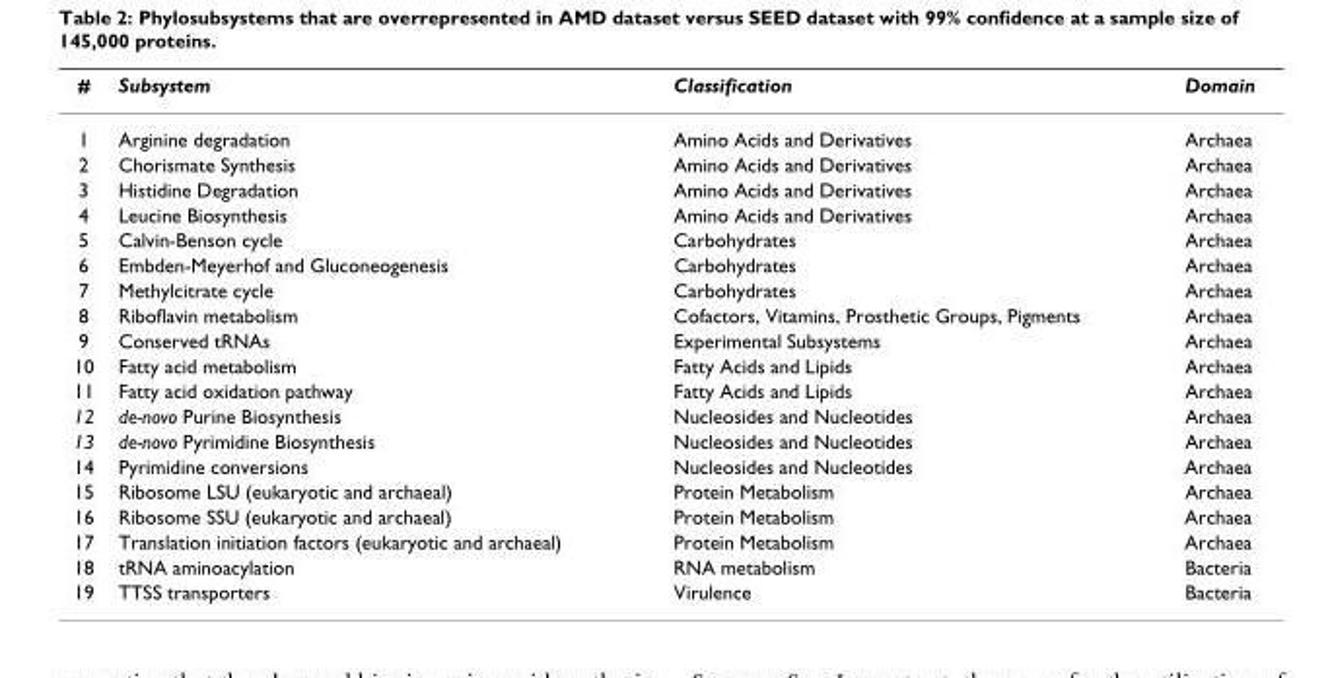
<table><thead><tr><td>#</td><td>Subsystem</td><td>Classification</td><td>Domain</td></tr></thead><tbody><tr><td>1</td><td>Arginine degradation</td><td>Amino Acids and Derivatives</td><td>Archaea</td></tr><tr><td>2</td><td>Chorismate Synthesis</td><td>Amino Acids and Derivatives</td><td>Archaea</td></tr><tr><td>3</td><td>Histidine Degradation</td><td>Amino Acids and Derivatives</td><td>Archaea</td></tr><tr><td>4</td><td>Leucine Biosynthesis</td><td>Amino Acids and Derivatives</td><td>Archaea</td></tr><tr><td>5</td><td>Calvin-Benson cycle</td><td>Carbohydrates</td><td>Archaea</td></tr><tr><td>6</td><td>Embden-Meyerhof and Gluconeogenesis</td><td>Carbohydrates</td><td>Archaea</td></tr><tr><td>7</td><td>Methylcitrate cycle</td><td>Carbohydrates</td><td>Archaea</td></tr><tr><td>8</td><td>Riboflavin metabolism</td><td>Cofactors, Vitamins, Prosthetic Groups, Pigments</td><td>Archaea</td></tr><tr><td>9</td><td>Conserved tRNAs</td><td>Experimental Subsystems</td><td>Archaea</td></tr><tr><td>10</td><td>Fatty acid metabolism</td><td>Fatty Acids and Lipids</td><td>Archaea</td></tr><tr><td>11</td><td>Fatty acid oxidation pathway</td><td>Fatty Acids and Lipids</td><td>Archaea</td></tr><tr><td>12</td><td>de-novo Purine Biosynthesis</td><td>Nucleosides and Nucleotides</td><td>Archaea</td></tr><tr><td>13</td><td>de-novo Pyrimidine Biosynthesis</td><td>Nucleosides and Nucleotides</td><td>Archaea</td></tr><tr><td>14</td><td>Pyrimidine conversions</td><td>Nucleosides and Nucleotides</td><td>Archaea</td></tr><tr><td>15</td><td>Ribosome LSU (eukaryotic and archaeal)</td><td>Protein Metabolism</td><td>Archaea</td></tr><tr><td>16</td><td>Ribosome SSU (eukaryotic and archaeal)</td><td>Protein Metabolism</td><td>Archaea</td></tr><tr><td>17</td><td>Translation initiation factors (eukaryotic and archaeal)</td><td>Protein Metabolism</td><td>Archaea</td></tr><tr><td>18</td><td>tRNA aminoacylation</td><td>RNA metabolism</td><td>Bacteria</td></tr><tr><td>19</td><td>TTSS transporters</td><td>Virulence</td><td>Bacteria</td></tr></tbody></table>